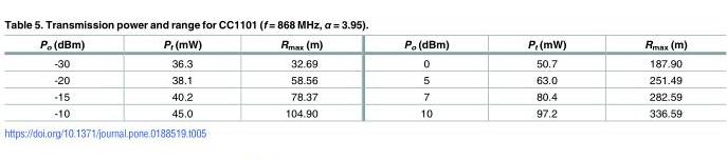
<table><thead><tr><td>P<sub>o</sub> (dBm)</td><td>P<sub>t</sub> (mW)</td><td>R<sub>max</sub> (m)</td><td>P<sub>o</sub> (dBm)</td><td>P<sub>t</sub> (mW)</td><td>R<sub>max</sub> (m)</td></tr></thead><tbody><tr><td>-30</td><td>36.3</td><td>32.69</td><td>0</td><td>50.7</td><td>187.90</td></tr><tr><td>-20</td><td>38.1</td><td>58.56</td><td>5</td><td>63.0</td><td>251.49</td></tr><tr><td>-15</td><td>40.2</td><td>78.37</td><td>7</td><td>80.4</td><td>282.59</td></tr><tr><td>-10</td><td>45.0</td><td>104.90</td><td>10</td><td>97.2</td><td>336.59</td></tr></tbody></table>